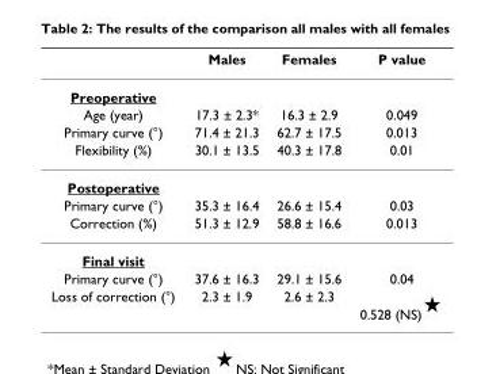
<table><thead><tr><td></td><td>Males</td><td>Females</td><td>P value</td></tr></thead><tbody><tr><td colspan="4">Preoperative</td></tr><tr><td>Age (year)</td><td>17.3 ± 2.3*</td><td>16.3 ± 2.9</td><td>0.049</td></tr><tr><td>Primary curve (°)</td><td>71.4 ± 21.3</td><td>62.7 ± 17.5</td><td>0.013</td></tr><tr><td>Flexibility (%)</td><td>30.1 ± 13.5</td><td>40.3 ± 17.8</td><td>0.01</td></tr><tr><td colspan="4">Postoperative</td></tr><tr><td>Primary curve (°)</td><td>35.3 ± 16.4</td><td>26.6 ± 15.4</td><td>0.03</td></tr><tr><td>Correction (%)</td><td>51.3 ± 12.9</td><td>58.8 ± 16.6</td><td>0.013</td></tr><tr><td colspan="4">Final visit</td></tr><tr><td>Primary curve (°)</td><td>37.6 ± 16.3</td><td>29.1 ± 15.6</td><td>0.04</td></tr><tr><td>Loss of correction (°)</td><td>2.3 ± 1.9</td><td>2.6 ± 2.3</td><td>0.528 (NS)</td></tr></tbody></table>